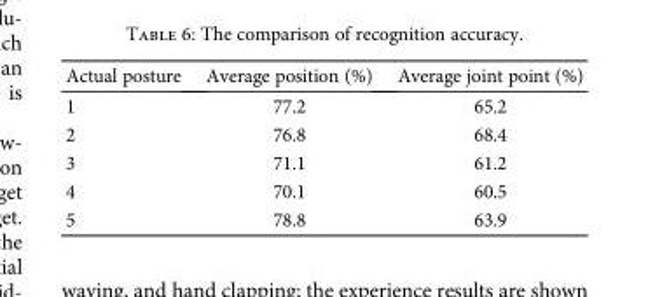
<table><thead><tr><td>Actual posture</td><td>Average position (%)</td><td>Average joint point (%)</td></tr></thead><tbody><tr><td>1</td><td>77.2</td><td>65.2</td></tr><tr><td>2</td><td>76.8</td><td>68.4</td></tr><tr><td>3</td><td>71.1</td><td>61.2</td></tr><tr><td>4</td><td>70.1</td><td>60.5</td></tr><tr><td>5</td><td>78.8</td><td>63.9</td></tr></tbody></table>